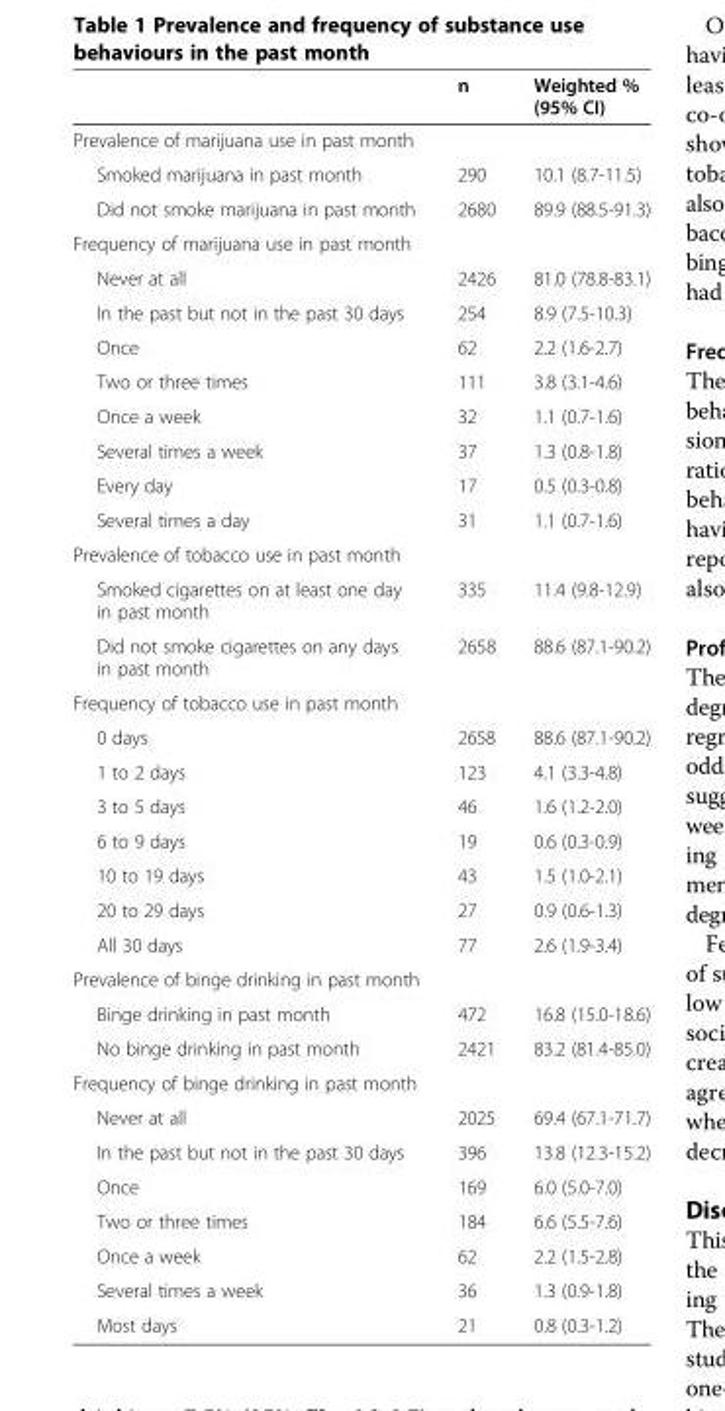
<table><thead><tr><td></td><td>n</td><td>Weighted % (95% CI)</td></tr></thead><tbody><tr><td colspan="3">Prevalence of marijuana use in past month</td></tr><tr><td>Smoked marijuana in past month</td><td>290</td><td>10.1 (8.7-11.5)</td></tr><tr><td>Did not smoke marijuana in past month</td><td>2680</td><td>89.9 (88.5-91.3)</td></tr><tr><td colspan="3">Frequency of marijuana use in past month</td></tr><tr><td>Never at all</td><td>2426</td><td>81.0 (78.8-83.1)</td></tr><tr><td>In the past but not in the past 30 days</td><td>254</td><td>8.9 (7.5-10.3)</td></tr><tr><td>Once</td><td>62</td><td>2.2 (1.6-2.7)</td></tr><tr><td>Two or three times</td><td>111</td><td>3.8 (3.1-4.6)</td></tr><tr><td>Once a week</td><td>32</td><td>1.1 (0.7-1.6)</td></tr><tr><td>Several times a week</td><td>37</td><td>1.3 (0.8-1.8)</td></tr><tr><td>Every day</td><td>17</td><td>0.5 (0.3-0.8)</td></tr><tr><td>Several times a day</td><td>31</td><td>1.1 (0.7-1.6)</td></tr><tr><td colspan="3">Prevalence of tobacco use in past month</td></tr><tr><td>Smoked cigarettes on at least one day in past month</td><td>335</td><td>11.4 (9.8-12.9)</td></tr><tr><td>Did not smoke cigarettes on any days in past month</td><td>2658</td><td>88.6 (87.1-90.2)</td></tr><tr><td colspan="3">Frequency of tobacco use in past month</td></tr><tr><td>0 days</td><td>2658</td><td>88.6 (87.1-90.2)</td></tr><tr><td>1 to 2 days</td><td>123</td><td>4.1 (3.3-4.8)</td></tr><tr><td>3 to 5 days</td><td>46</td><td>1.6 (1.2-2.0)</td></tr><tr><td>6 to 9 days</td><td>19</td><td>0.6 (0.3-0.9)</td></tr><tr><td>10 to 19 days</td><td>43</td><td>1.5 (1.0-2.1)</td></tr><tr><td>20 to 29 days</td><td>27</td><td>0.9 (0.6-1.3)</td></tr><tr><td>All 30 days</td><td>77</td><td>2.6 (1.9-3.4)</td></tr><tr><td colspan="3">Prevalence of binge drinking in past month</td></tr><tr><td>Binge drinking in past month</td><td>472</td><td>16.8 (15.0-18.6)</td></tr><tr><td>No binge drinking in past month</td><td>2421</td><td>83.2 (81.4-85.0)</td></tr><tr><td colspan="3">Frequency of binge drinking in past month</td></tr><tr><td>Never at all</td><td>2025</td><td>69.4 (67.1-71.7)</td></tr><tr><td>In the past but not in the past 30 days</td><td>396</td><td>13.8 (12.3-15.2)</td></tr><tr><td>Once</td><td>169</td><td>6.0 (5.0-7.0)</td></tr><tr><td>Two or three times</td><td>184</td><td>6.6 (5.5-7.6)</td></tr><tr><td>Once a week</td><td>62</td><td>2.2 (1.5-2.8)</td></tr><tr><td>Several times a week</td><td>36</td><td>1.3 (0.9-1.8)</td></tr><tr><td>Most days</td><td>21</td><td>0.8 (0.3-1.2)</td></tr></tbody></table>